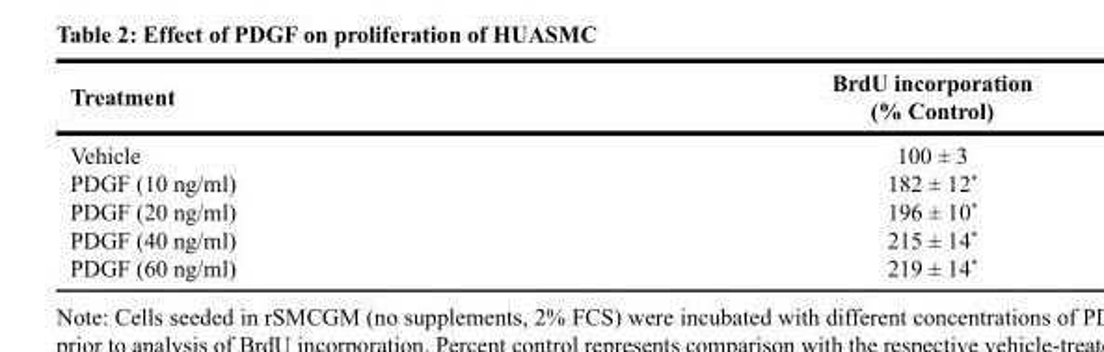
<table><thead><tr><td>Treatment</td><td>BrdU incorporation (% Control)</td></tr></thead><tbody><tr><td>Vehicle PDGF (10 ng/ml) PDGF (20 ng/ml) PDGF (40 ng/ml) PDGF (60 ng/ml)</td><td>100 ± 3 182 ± 12* 196 ± 10* 215 ± 14* 219 ± 14*</td></tr></tbody></table>